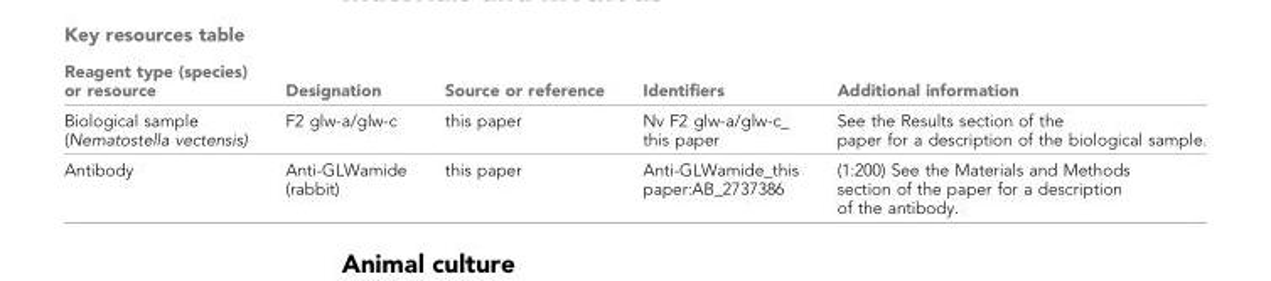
<table><thead><tr><td>Reagent type (species) or resource</td><td>Designation</td><td>Source or reference</td><td>Identifiers</td><td>Additional information</td></tr></thead><tbody><tr><td>Biological sample (Nematostella vectensis)</td><td>F2 glw-a/glw-c</td><td>this paper</td><td>Nv F2 glw-a/glw-c_ this paper</td><td>See the Results section of the paper for a description of the biological sample.</td></tr><tr><td>Antibody</td><td>Anti-GLWamide (rabbit)</td><td>this paper</td><td>Anti-GLWamide_this paper:AB_2737386</td><td>(1:200) See the Materials and Methods section of the paper for a description of the antibody.</td></tr></tbody></table>